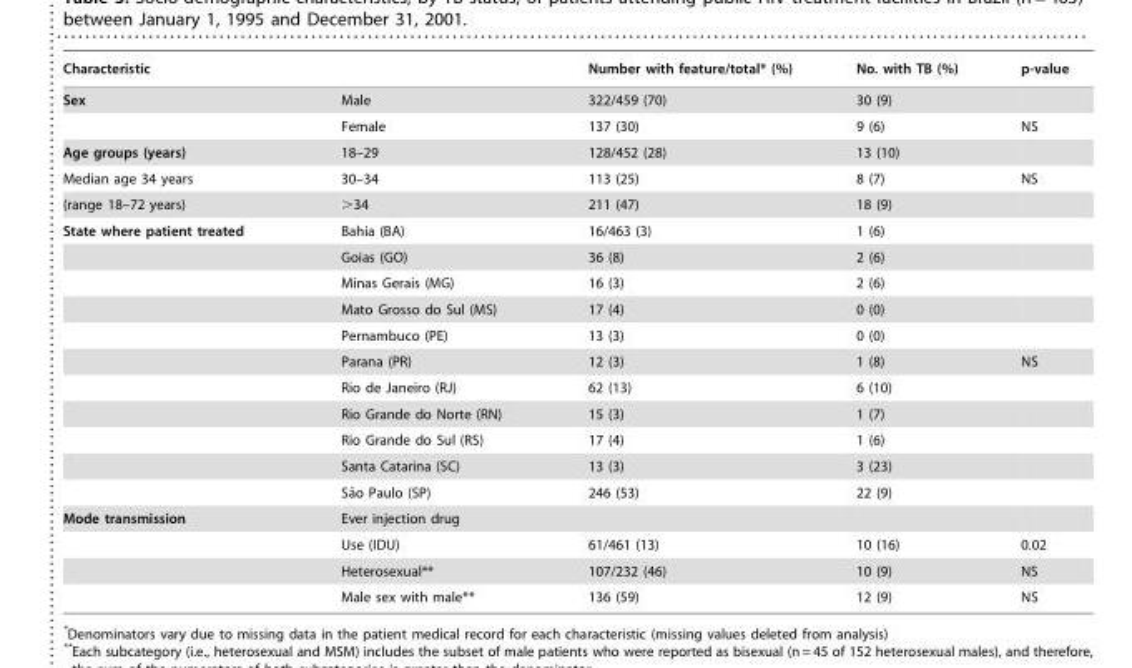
<table><thead><tr><td colspan="2">Characteristic</td><td rowspan="2">Number with feature/total* (%) 322/459 (70)</td><td rowspan="2">No. with TB (%) 30 (9)</td><td rowspan="2">p-value</td></tr><tr><td>Sex</td><td>Male</td></tr></thead><tbody><tr><td></td><td>Female</td><td>137 (30)</td><td>9 (6)</td><td>NS</td></tr><tr><td>Age groups (years)</td><td>18–29</td><td>128/452 (28)</td><td>13 (10)</td><td></td></tr><tr><td>Median age 34 years</td><td>30–34</td><td>113 (25)</td><td>8 (7)</td><td>NS</td></tr><tr><td>(range 18–72 years)</td><td>&gt;34</td><td>211 (47)</td><td>18 (9)</td><td></td></tr><tr><td rowspan="11">State where patient treated</td><td>Bahia (BA)</td><td>16/463 (3)</td><td>1 (6)</td><td></td></tr><tr><td>Goias (GO)</td><td>36 (8)</td><td>2 (6)</td><td></td></tr><tr><td>Minas Gerais (MG)</td><td>16 (3)</td><td>2 (6)</td><td></td></tr><tr><td>Mato Grosso do Sul (MS)</td><td>17 (4)</td><td>0 (0)</td><td></td></tr><tr><td>Pernambuco (PE)</td><td>13 (3)</td><td>0 (0)</td><td></td></tr><tr><td>Parana (PR)</td><td>12 (3)</td><td>1 (8)</td><td>NS</td></tr><tr><td>Rio de Janeiro (RJ)</td><td>62 (13)</td><td>6 (10)</td><td></td></tr><tr><td>Rio Grande do Norte (RN)</td><td>15 (3)</td><td>1 (7)</td><td></td></tr><tr><td>Rio Grande do Sul (RS)</td><td>17 (4)</td><td>1 (6)</td><td></td></tr><tr><td>Santa Catarina (SC)</td><td>13 (3)</td><td>3 (23)</td><td></td></tr><tr><td>Sa˜o Paulo (SP)</td><td>246 (53)</td><td>22 (9)</td><td></td></tr><tr><td rowspan="4">Mode transmission</td><td>Ever injection drug</td><td></td><td></td><td></td></tr><tr><td>Use (IDU)</td><td>61/461 (13)</td><td>10 (16)</td><td>0.02</td></tr><tr><td>Heterosexual**</td><td>107/232 (46)</td><td>10 (9)</td><td>NS</td></tr><tr><td>Male sex with male**</td><td>136 (59)</td><td>12 (9)</td><td>NS</td></tr></tbody></table>